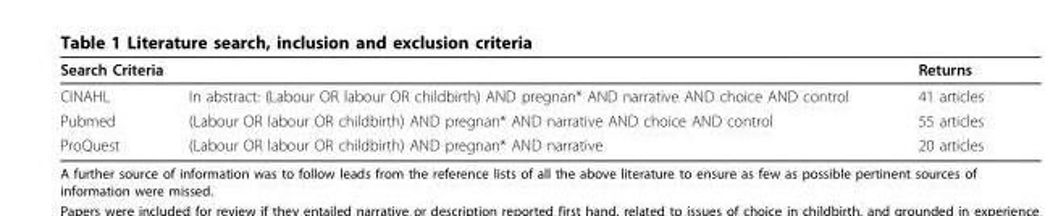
<table><thead><tr><td colspan="2">Search Criteria</td><td rowspan="2">Returns 41 articles</td></tr><tr><td>CINAHL</td><td>In abstract: (Labour OR labour OR childbirth) AND pregnan* AND narrative AND choice AND control</td></tr></thead><tbody><tr><td>Pubmed</td><td>(Labour OR labour OR childbirth) AND pregnan* AND narrative AND choice AND control</td><td>55 articles</td></tr><tr><td>ProQuest</td><td>(Labour OR labour OR childbirth) AND pregnan* AND narrative</td><td>20 articles</td></tr></tbody></table>